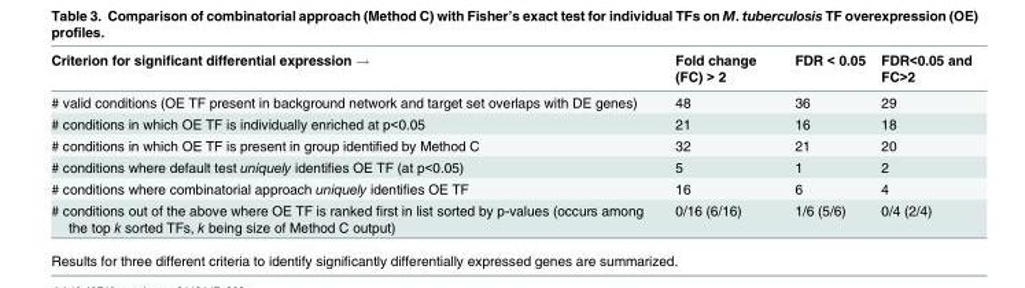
<table><thead><tr><td>Criterion for significant differential expression →</td><td>Fold change (FC) &gt; 2</td><td>FDR &lt; 0.05</td><td>FDR&lt;0.05 and FC&gt;2</td></tr></thead><tbody><tr><td># valid conditions (OE TF present in background network and target set overlaps with DE genes)</td><td>48</td><td>36</td><td>29</td></tr><tr><td># conditions in which OE TF is individually enriched at p&lt;0.05</td><td>21</td><td>16</td><td>18</td></tr><tr><td># conditions in which OE TF is present in group identified by Method C</td><td>32</td><td>21</td><td>20</td></tr><tr><td># conditions where default test uniquely identifies OE TF (at p&lt;0.05)</td><td>5</td><td>1</td><td>2</td></tr><tr><td># conditions where combinatorial approach uniquely identifies OE TF</td><td>16</td><td>6</td><td>4</td></tr><tr><td># conditions out of the above where OE TF is ranked first in list sorted by p-values (occurs among the top k sorted TFs, k being size of Method C output)</td><td>0/16 (6/16)</td><td>1/6 (5/6)</td><td>0/4 (2/4)</td></tr></tbody></table>